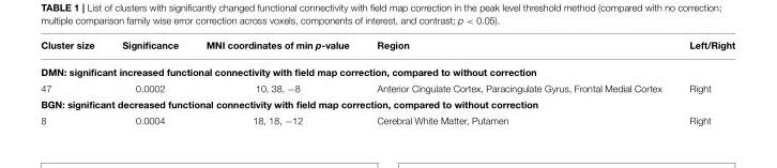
<table><thead><tr><td>Cluster size</td><td>Significance</td><td>MNI coordinates of min p-value</td><td>Region</td><td>Left/Right</td></tr></thead><tbody><tr><td colspan="5">DMN: significant increased functional connectivity with field map correction, compared to without correction</td></tr><tr><td>47</td><td>0.0002</td><td>10, 38, −8</td><td>Anterior Cingulate Cortex, Paracingulate Gyrus, Frontal Medial Cortex</td><td>Right</td></tr><tr><td colspan="5">BGN: significant decreased functional connectivity with field map correction, compared to without correction</td></tr><tr><td>8</td><td>0.0004</td><td>18, 18, −12</td><td>Cerebral White Matter, Putamen</td><td>Right</td></tr></tbody></table>